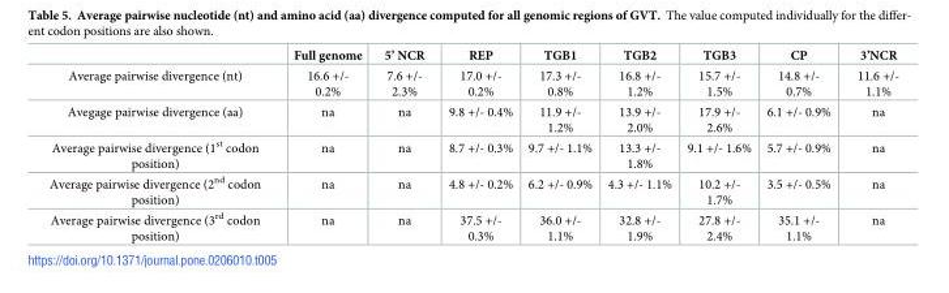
<table><thead><tr><td></td><td>Full genome</td><td>5’ NCR</td><td>REP</td><td>TGB1</td><td>TGB2</td><td>TGB3</td><td>CP</td><td>3’NCR</td></tr></thead><tbody><tr><td>Average pairwise divergence (nt)</td><td>16.6 +/- 0.2%</td><td>7.6 +/- 2.3%</td><td>17.0 +/- 0.2%</td><td>17.3 +/- 0.8%</td><td>16.8 +/- 1.2%</td><td>15.7 +/- 1.5%</td><td>14.8 +/- 0.7%</td><td>11.6 +/- 1.1%</td></tr><tr><td>Avegage pairwise divergence (aa)</td><td>na</td><td>na</td><td>9.8 +/- 0.4%</td><td>11.9 +/- 1.2%</td><td>13.9 +/- 2.0%</td><td>17.9 +/- 2.6%</td><td>6.1 +/- 0.9%</td><td>na</td></tr><tr><td>Average pairwise divergence (1<sup>st</sup> codon position)</td><td>na</td><td>na</td><td>8.7 +/- 0.3%</td><td>9.7 +/- 1.1%</td><td>13.3 +/- 1.8%</td><td>9.1 +/- 1.6%</td><td>5.7 +/- 0.9%</td><td>na</td></tr><tr><td>Average pairwise divergence (2<sup>nd</sup> codon position)</td><td>na</td><td>na</td><td>4.8 +/- 0.2%</td><td>6.2 +/- 0.9%</td><td>4.3 +/- 1.1%</td><td>10.2 +/- 1.7%</td><td>3.5 +/- 0.5%</td><td>na</td></tr><tr><td>Average pairwise divergence (3<sup>rd</sup> codon position)</td><td>na</td><td>na</td><td>37.5 +/- 0.3%</td><td>36.0 +/- 1.1%</td><td>32.8 +/- 1.9%</td><td>27.8 +/- 2.4%</td><td>35.1 +/- 1.1%</td><td>na</td></tr></tbody></table>